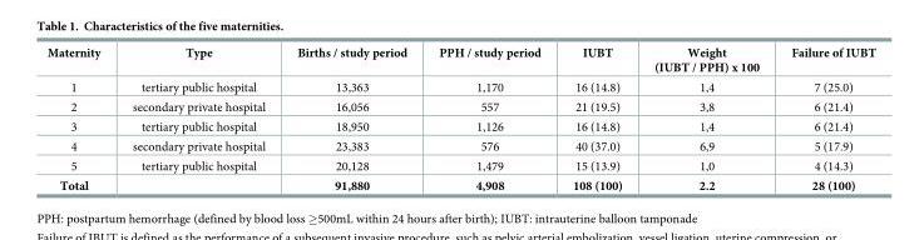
<table><thead><tr><td>Maternity</td><td>Type</td><td>Births / study period</td><td>PPH / study period</td><td>IUBT</td><td>Weight (IUBT / PPH) x 100</td><td>Failure of IUBT</td></tr></thead><tbody><tr><td>1</td><td>tertiary public hospital</td><td>13,363</td><td>1,170</td><td>16 (14.8)</td><td>1,4</td><td>7 (25.0)</td></tr><tr><td>2</td><td>secondary private hospital</td><td>16,056</td><td>557</td><td>21 (19.5)</td><td>3,8</td><td>6 (21.4)</td></tr><tr><td>3</td><td>tertiary public hospital</td><td>18,950</td><td>1,126</td><td>16 (14.8)</td><td>1,4</td><td>6 (21.4)</td></tr><tr><td>4</td><td>secondary private hospital</td><td>23,383</td><td>576</td><td>40 (37.0)</td><td>6,9</td><td>5 (17.9)</td></tr><tr><td>5</td><td>tertiary public hospital</td><td>20,128</td><td>1,479</td><td>15 (13.9)</td><td>1,0</td><td>4 (14.3)</td></tr><tr><td>Total</td><td></td><td>91,880</td><td>4,908</td><td>108 (100)</td><td>2.2</td><td>28 (100)</td></tr></tbody></table>